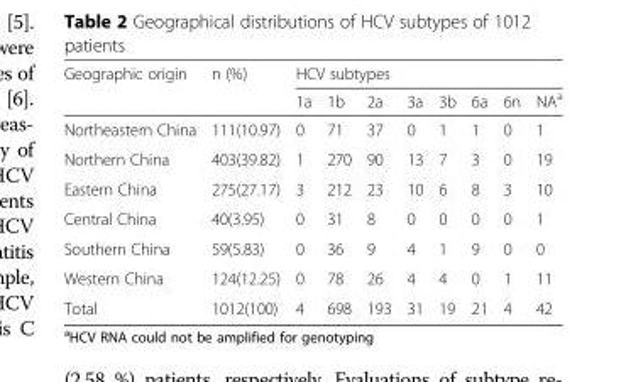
<table><thead><tr><td rowspan="2">Geographic origin</td><td rowspan="2">n (%)</td><td colspan="8">HCV subtypes</td></tr><tr><td>1a</td><td>1b</td><td>2a</td><td>3a</td><td>3b</td><td>6a</td><td>6n</td><td>NA<sup>a</sup></td></tr></thead><tbody><tr><td>Northeastern China</td><td>111(10.97)</td><td>0</td><td>71</td><td>37</td><td>0</td><td>1</td><td>1</td><td>0</td><td>1</td></tr><tr><td>Northern China</td><td>403(39.82)</td><td>1</td><td>270</td><td>90</td><td>13</td><td>7</td><td>3</td><td>0</td><td>19</td></tr><tr><td>Eastern China</td><td>275(27.17)</td><td>3</td><td>212</td><td>23</td><td>10</td><td>6</td><td>8</td><td>3</td><td>10</td></tr><tr><td>Central China</td><td>40(3.95)</td><td>0</td><td>31</td><td>8</td><td>0</td><td>0</td><td>0</td><td>0</td><td>1</td></tr><tr><td>Southern China</td><td>59(5.83)</td><td>0</td><td>36</td><td>9</td><td>4</td><td>1</td><td>9</td><td>0</td><td>0</td></tr><tr><td>Western China</td><td>124(12.25)</td><td>0</td><td>78</td><td>26</td><td>4</td><td>4</td><td>0</td><td>1</td><td>11</td></tr><tr><td>Total</td><td>1012(100)</td><td>4</td><td>698</td><td>193</td><td>31</td><td>19</td><td>21</td><td>4</td><td>42</td></tr></tbody></table>